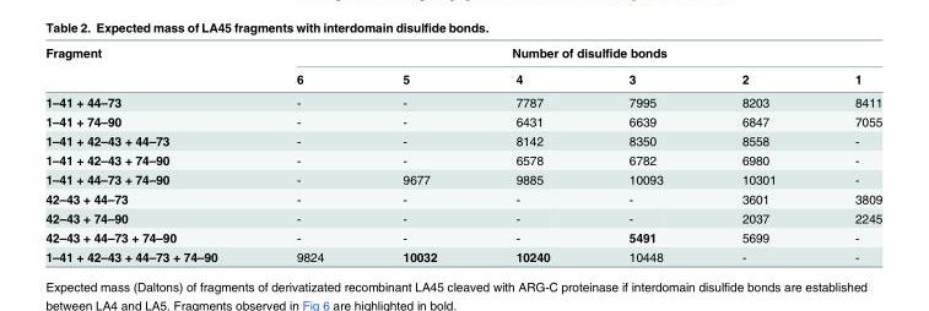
<table><thead><tr><td rowspan="2">Fragment</td><td colspan="6">Number of disulfide bonds</td></tr><tr><td>6</td><td>5</td><td>4</td><td>3</td><td>2</td><td>1</td></tr></thead><tbody><tr><td>1–41 + 44–73</td><td>-</td><td>-</td><td>7787</td><td>7995</td><td>8203</td><td>8411</td></tr><tr><td>1–41 + 74–90</td><td>-</td><td>-</td><td>6431</td><td>6639</td><td>6847</td><td>7055</td></tr><tr><td>1–41 + 42–43 + 44–73</td><td>-</td><td>-</td><td>8142</td><td>8350</td><td>8558</td><td>-</td></tr><tr><td>1–41 + 42–43 + 74–90</td><td>-</td><td>-</td><td>6578</td><td>6782</td><td>6980</td><td>-</td></tr><tr><td>1–41 + 44–73 + 74–90</td><td>-</td><td>9677</td><td>9885</td><td>10093</td><td>10301</td><td>-</td></tr><tr><td>42–43 + 44–73</td><td>-</td><td>-</td><td>-</td><td>-</td><td>3601</td><td>3809</td></tr><tr><td>42–43 + 74–90</td><td>-</td><td>-</td><td>-</td><td>-</td><td>2037</td><td>2245</td></tr><tr><td>42–43 + 44–73 + 74–90</td><td>-</td><td>-</td><td>-</td><td>5491</td><td>5699</td><td>-</td></tr><tr><td>1–41 + 42–43 + 44–73 + 74–90</td><td>9824</td><td>10032</td><td>10240</td><td>10448</td><td>-</td><td>-</td></tr></tbody></table>